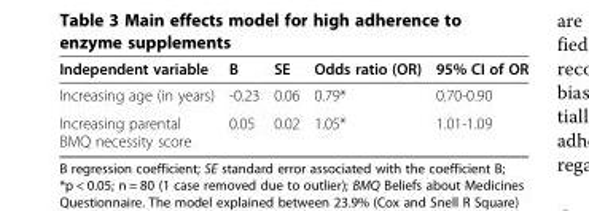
<table><thead><tr><td>Independent variable</td><td>B</td><td>SE</td><td>Odds ratio (OR)</td><td>95% CI of OR</td></tr></thead><tbody><tr><td>Increasing age (in years)</td><td>-0.23</td><td>0.06</td><td>0.79*</td><td>0.70-0.90</td></tr><tr><td>Increasing parental BMQ necessity score</td><td>0.05</td><td>0.02</td><td>1.05*</td><td>1.01-1.09</td></tr></tbody></table>